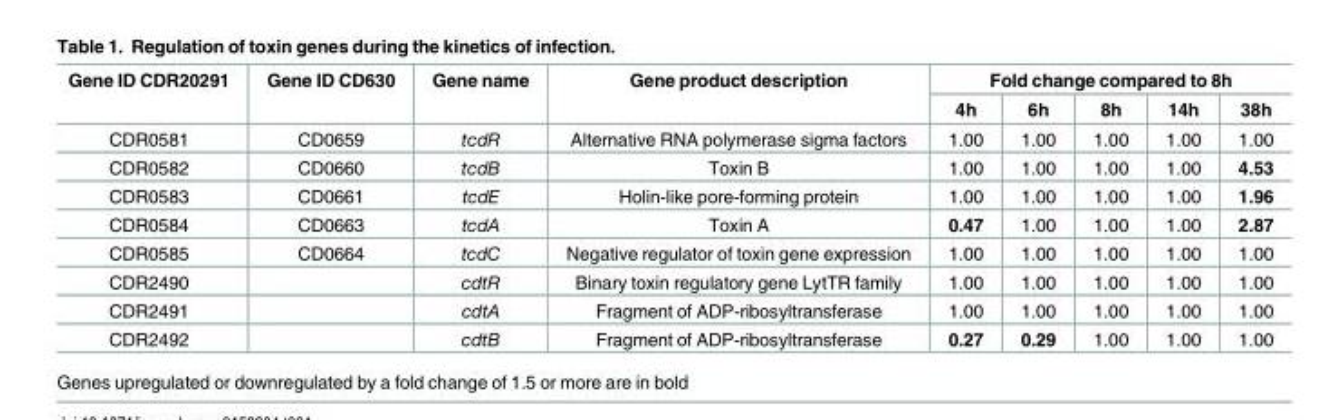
<table><thead><tr><td rowspan="2">Gene ID CDR20291</td><td rowspan="2">Gene ID CD630</td><td rowspan="2">Gene name</td><td rowspan="2">Gene product description</td><td colspan="5">Fold change compared to 8h</td></tr><tr><td>4h</td><td>6h</td><td>8h</td><td>14h</td><td>38h</td></tr></thead><tbody><tr><td>CDR0581</td><td>CD0659</td><td>tcdR</td><td>Alternative RNA polymerase sigma factors</td><td>1.00</td><td>1.00</td><td>1.00</td><td>1.00</td><td>1.00</td></tr><tr><td>CDR0582</td><td>CD0660</td><td>tcdB</td><td>Toxin B</td><td>1.00</td><td>1.00</td><td>1.00</td><td>1.00</td><td>4.53</td></tr><tr><td>CDR0583</td><td>CD0661</td><td>tcdE</td><td>Holin-like pore-forming protein</td><td>1.00</td><td>1.00</td><td>1.00</td><td>1.00</td><td>1.96</td></tr><tr><td>CDR0584</td><td>CD0663</td><td>tcdA</td><td>Toxin A</td><td>0.47</td><td>1.00</td><td>1.00</td><td>1.00</td><td>2.87</td></tr><tr><td>CDR0585</td><td>CD0664</td><td>tcdC</td><td>Negative regulator of toxin gene expression</td><td>1.00</td><td>1.00</td><td>1.00</td><td>1.00</td><td>1.00</td></tr><tr><td>CDR2490</td><td></td><td>cdtR</td><td>Binary toxin regulatory gene LytTR family</td><td>1.00</td><td>1.00</td><td>1.00</td><td>1.00</td><td>1.00</td></tr><tr><td>CDR2491</td><td></td><td>cdtA</td><td>Fragment of ADP-ribosyltransferase</td><td>1.00</td><td>1.00</td><td>1.00</td><td>1.00</td><td>1.00</td></tr><tr><td>CDR2492</td><td></td><td>cdtB</td><td>Fragment of ADP-ribosyltransferase</td><td>0.27</td><td>0.29</td><td>1.00</td><td>1.00</td><td>1.00</td></tr></tbody></table>